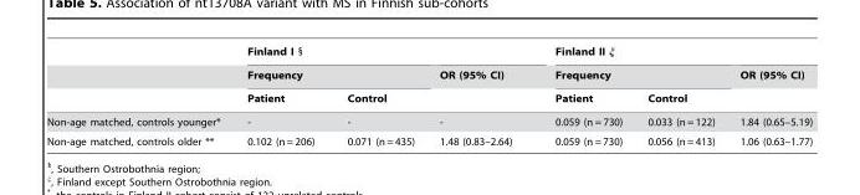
<table><thead><tr><td rowspan="3"></td><td colspan="3">Finland I §</td><td colspan="3">Finland II ξ</td></tr><tr><td colspan="2">Frequency</td><td rowspan="2">OR (95% CI)</td><td colspan="2">Frequency</td><td rowspan="2">OR (95% CI)</td></tr><tr><td>Patient</td><td>Control</td><td>Patient</td><td>Control</td></tr></thead><tbody><tr><td>Non-age matched, controls younger*</td><td>-</td><td>-</td><td>-</td><td>0.059 (n = 730)</td><td>0.033 (n = 122)</td><td>1.84 (0.65–5.19)</td></tr><tr><td>Non-age matched, controls older **</td><td>0.102 (n = 206)</td><td>0.071 (n = 435)</td><td>1.48 (0.83–2.64)</td><td>0.059 (n = 730)</td><td>0.056 (n = 413)</td><td>1.06 (0.63–1.77)</td></tr></tbody></table>